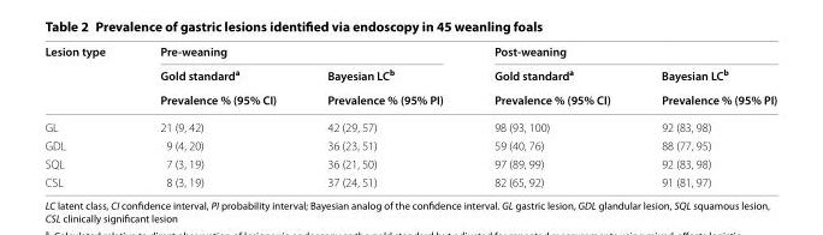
<table><thead><tr><td rowspan="3">Lesion type</td><td colspan="2">Pre‑weaning</td><td colspan="2">Post‑weaning</td></tr><tr><td rowspan="2">Gold standard<sup>a</sup> Prevalence % (95% CI)</td><td rowspan="2">Bayesian LC<sup>b</sup> Prevalence % (95% PI)</td><td rowspan="2">Gold standard<sup>a</sup> Prevalence % (95% CI)</td><td rowspan="2">Bayesian LC<sup>b</sup> Prevalence % (95% PI)</td></tr><tr></tr></thead><tbody><tr><td>GL</td><td>21 (9, 42)</td><td>42 (29, 57)</td><td>98 (93, 100)</td><td>92 (83, 98)</td></tr><tr><td>GDL</td><td>9 (4, 20)</td><td>36 (23, 51)</td><td>59 (40, 76)</td><td>88 (77, 95)</td></tr><tr><td>SQL</td><td>7 (3, 19)</td><td>36 (21, 50)</td><td>97 (89, 99)</td><td>92 (83, 98)</td></tr><tr><td>CSL</td><td>8 (3, 19)</td><td>37 (24, 51)</td><td>82 (65, 92)</td><td>91 (81, 97)</td></tr></tbody></table>